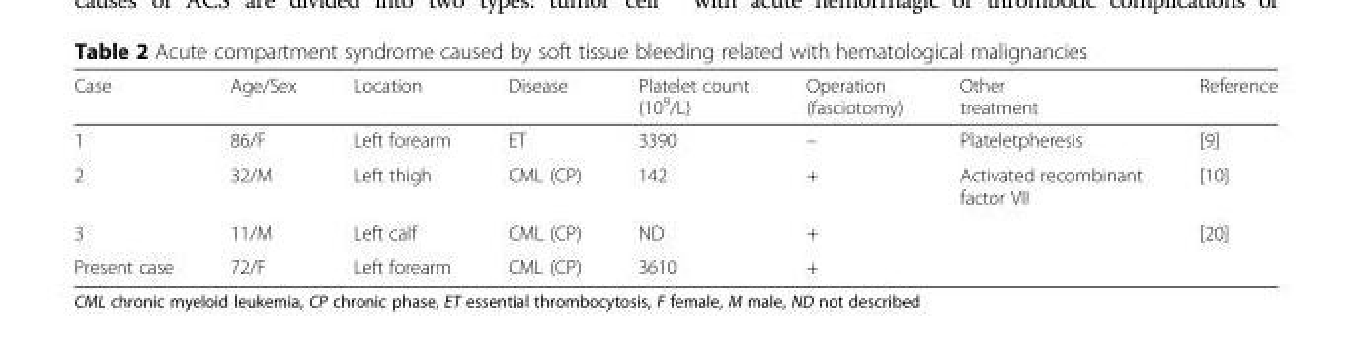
<table><thead><tr><td>Case</td><td>Age/Sex</td><td>Location</td><td>Disease</td><td>Platelet count (10<sup>9</sup>/L)</td><td>Operation (fasciotomy)</td><td>Other treatment</td><td>Reference</td></tr></thead><tbody><tr><td>1</td><td>86/F</td><td>Left forearm</td><td>ET</td><td>3390</td><td>–</td><td>Plateletpheresis</td><td>[9]</td></tr><tr><td>2</td><td>32/M</td><td>Left thigh</td><td>CML (CP)</td><td>142</td><td>+</td><td>Activated recombinant factor VII</td><td>[10]</td></tr><tr><td>3</td><td>11/M</td><td>Left calf</td><td>CML (CP)</td><td>ND</td><td>+</td><td></td><td>[20]</td></tr><tr><td>Present case</td><td>72/F</td><td>Left forearm</td><td>CML (CP)</td><td>3610</td><td>+</td><td></td><td></td></tr></tbody></table>